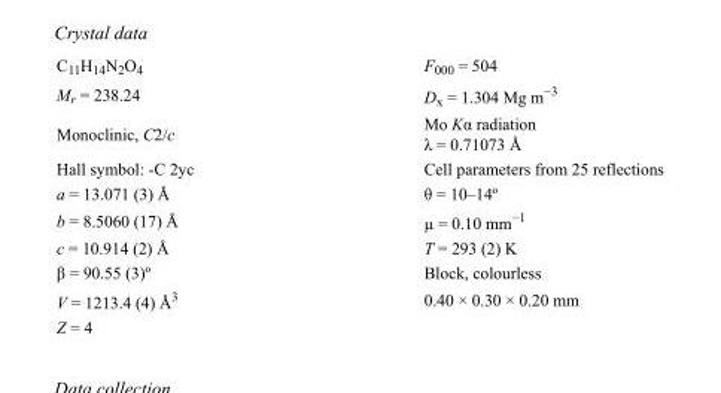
<table><tbody><tr><td>C<sub>11</sub>H<sub>14</sub>N<sub>2</sub>O<sub>4</sub></td><td>F<sub>000</sub> = 504</td></tr><tr><td>M<sub>r</sub> = 238.24</td><td>D<sub>x</sub> = 1.304 Mg m<sup>−3</sup></td></tr><tr><td>Monoclinic, C2/c</td><td>Mo Kα radiation λ = 0.71073 Å</td></tr><tr><td>Hall symbol: -C 2yc</td><td>Cell parameters from 25 reflections</td></tr><tr><td>a = 13.071 (3) Å</td><td>θ = 10–14º</td></tr><tr><td>b = 8.5060 (17) Å</td><td>µ = 0.10 mm<sup>−1</sup></td></tr><tr><td>c = 10.914 (2) Å</td><td>T = 293 (2) K</td></tr><tr><td>β = 90.55 (3)º</td><td>Block, colourless</td></tr><tr><td>V = 1213.4 (4) Å<sup>3</sup></td><td>0.40 × 0.30 × 0.20 mm</td></tr><tr><td>Z = 4</td><td></td></tr></tbody></table>